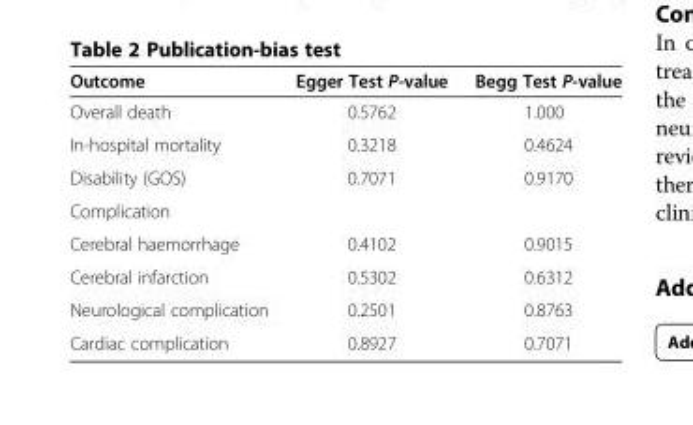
<table><thead><tr><td>Outcome</td><td>Egger Test P-value</td><td>Begg Test P-value</td></tr></thead><tbody><tr><td>Overall death</td><td>0.5762</td><td>1.000</td></tr><tr><td>In-hospital mortality</td><td>0.3218</td><td>0.4624</td></tr><tr><td>Disability (GOS)</td><td>0.7071</td><td>0.9170</td></tr><tr><td colspan="3">Complication</td></tr><tr><td>Cerebral haemorrhage</td><td>0.4102</td><td>0.9015</td></tr><tr><td>Cerebral infarction</td><td>0.5302</td><td>0.6312</td></tr><tr><td>Neurological complication</td><td>0.2501</td><td>0.8763</td></tr><tr><td>Cardiac complication</td><td>0.8927</td><td>0.7071</td></tr></tbody></table>